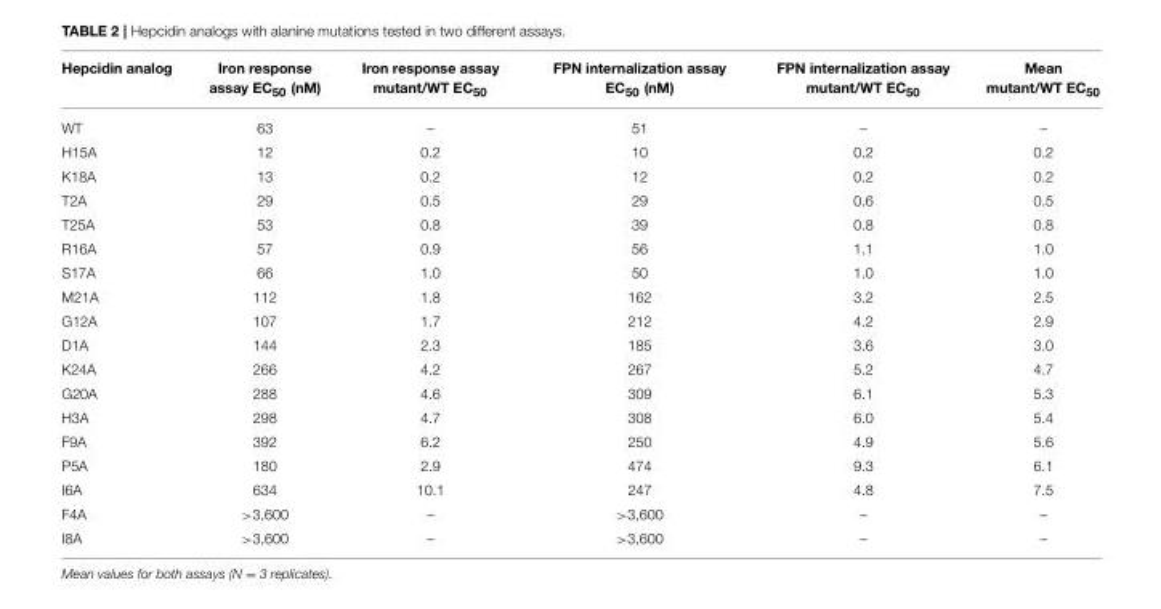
<table><thead><tr><td>Hepcidin analog</td><td>Iron response assay EC<sub>50</sub> (nM)</td><td>Iron response assay mutant/WT EC<sub>50</sub></td><td>FPN internalization assay EC<sub>50</sub> (nM)</td><td>FPN internalization assay mutant/WT EC<sub>50</sub></td><td>Mean mutant/WT EC<sub>50</sub></td></tr></thead><tbody><tr><td>WT</td><td>63</td><td>–</td><td>51</td><td>–</td><td>–</td></tr><tr><td>H15A</td><td>12</td><td>0.2</td><td>10</td><td>0.2</td><td>0.2</td></tr><tr><td>K18A</td><td>13</td><td>0.2</td><td>12</td><td>0.2</td><td>0.2</td></tr><tr><td>T2A</td><td>29</td><td>0.5</td><td>29</td><td>0.6</td><td>0.5</td></tr><tr><td>T25A</td><td>53</td><td>0.8</td><td>39</td><td>0.8</td><td>0.8</td></tr><tr><td>R16A</td><td>57</td><td>0.9</td><td>56</td><td>1.1</td><td>1.0</td></tr><tr><td>S17A</td><td>66</td><td>1.0</td><td>50</td><td>1.0</td><td>1.0</td></tr><tr><td>M21A</td><td>112</td><td>1.8</td><td>162</td><td>3.2</td><td>2.5</td></tr><tr><td>G12A</td><td>107</td><td>1.7</td><td>212</td><td>4.2</td><td>2.9</td></tr><tr><td>D1A</td><td>144</td><td>2.3</td><td>185</td><td>3.6</td><td>3.0</td></tr><tr><td>K24A</td><td>266</td><td>4.2</td><td>267</td><td>5.2</td><td>4.7</td></tr><tr><td>G20A</td><td>288</td><td>4.6</td><td>309</td><td>6.1</td><td>5.3</td></tr><tr><td>H3A</td><td>298</td><td>4.7</td><td>308</td><td>6.0</td><td>5.4</td></tr><tr><td>F9A</td><td>392</td><td>6.2</td><td>250</td><td>4.9</td><td>5.6</td></tr><tr><td>P5A</td><td>180</td><td>2.9</td><td>474</td><td>9.3</td><td>6.1</td></tr><tr><td>I6A</td><td>634</td><td>10.1</td><td>247</td><td>4.8</td><td>7.5</td></tr><tr><td>F4A</td><td>&gt;3,600</td><td>–</td><td>&gt;3,600</td><td>–</td><td>–</td></tr><tr><td>I8A</td><td>&gt;3,600</td><td>–</td><td>&gt;3,600</td><td>–</td><td>–</td></tr></tbody></table>